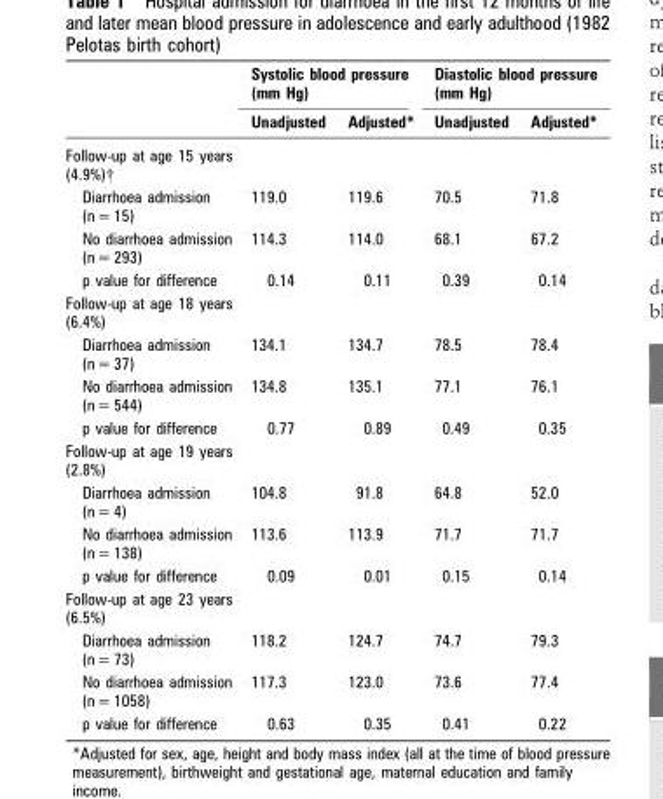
<table><thead><tr><td rowspan="2"></td><td colspan="2">Systolic blood pressure (mm Hg)</td><td colspan="2">Diastolic blood pressure (mm Hg)</td></tr><tr><td>Unadjusted</td><td>Adjusted*</td><td>Unadjusted</td><td>Adjusted*</td></tr></thead><tbody><tr><td colspan="5">Follow-up at age 15 years (4.9%)†</td></tr><tr><td>Diarrhoea admission (n = 15)</td><td>119.0</td><td>119.6</td><td>70.5</td><td>71.8</td></tr><tr><td>No diarrhoea admission (n = 293)</td><td>114.3</td><td>114.0</td><td>68.1</td><td>67.2</td></tr><tr><td>p value for difference</td><td>0.14</td><td>0.11</td><td>0.39</td><td>0.14</td></tr><tr><td colspan="5">Follow-up at age 18 years (6.4%)</td></tr><tr><td>Diarrhoea admission (n = 37)</td><td>134.1</td><td>134.7</td><td>78.5</td><td>78.4</td></tr><tr><td>No diarrhoea admission (n = 544)</td><td>134.8</td><td>135.1</td><td>77.1</td><td>76.1</td></tr><tr><td>p value for difference</td><td>0.77</td><td>0.89</td><td>0.49</td><td>0.35</td></tr><tr><td colspan="5">Follow-up at age 19 years (2.8%)</td></tr><tr><td>Diarrhoea admission (n = 4)</td><td>104.8</td><td>91.8</td><td>64.8</td><td>52.0</td></tr><tr><td>No diarrhoea admission (n = 138)</td><td>113.6</td><td>113.9</td><td>71.7</td><td>71.7</td></tr><tr><td>p value for difference</td><td>0.09</td><td>0.01</td><td>0.15</td><td>0.14</td></tr><tr><td colspan="5">Follow-up at age 23 years (6.5%)</td></tr><tr><td>Diarrhoea admission (n = 73)</td><td>118.2</td><td>124.7</td><td>74.7</td><td>79.3</td></tr><tr><td>No diarrhoea admission (n = 1058)</td><td>117.3</td><td>123.0</td><td>73.6</td><td>77.4</td></tr><tr><td>p value for difference</td><td>0.63</td><td>0.35</td><td>0.41</td><td>0.22</td></tr></tbody></table>